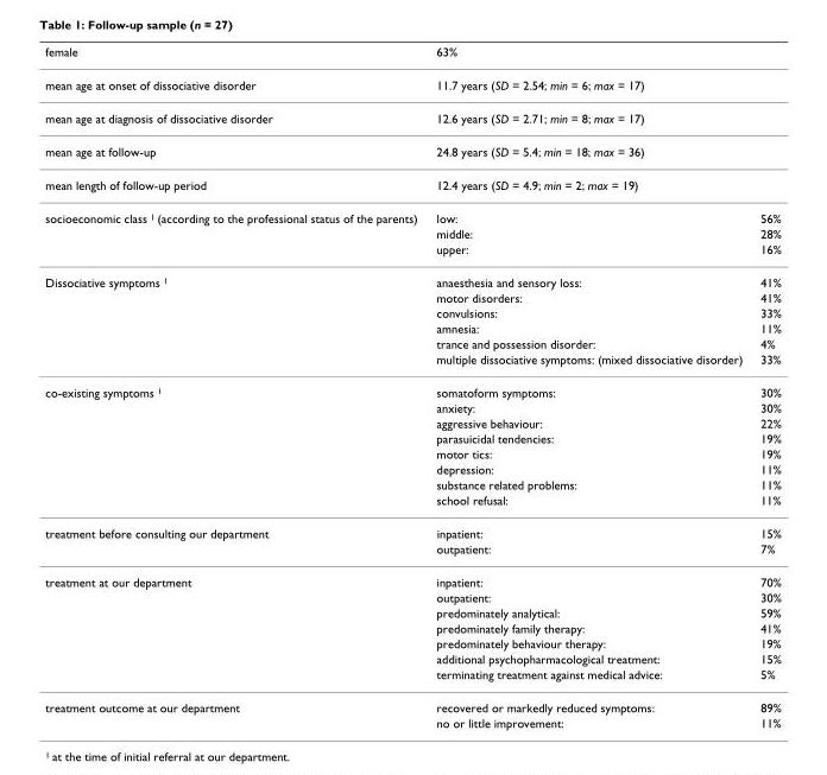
<table><thead><tr><td>female</td><td>63%</td><td></td></tr></thead><tbody><tr><td>mean age at onset of dissociative disorder</td><td>11.7 years (SD = 2.54; min = 6; max = 17)</td><td></td></tr><tr><td>mean age at diagnosis of dissociative disorder</td><td>12.6 years (SD = 2.71; min = 8; max = 17)</td><td></td></tr><tr><td>mean age at follow-up</td><td>24.8 years (SD = 5.4; min = 18; max = 36)</td><td></td></tr><tr><td>mean length of follow-up period</td><td>12.4 years (SD = 4.9; min = 2; max = 19)</td><td></td></tr><tr><td rowspan="3">socioeconomic class <sup>1</sup> (according to the professional status of the parents)</td><td>low:</td><td>56%</td></tr><tr><td>middle:</td><td>28%</td></tr><tr><td>upper:</td><td>16%</td></tr><tr><td rowspan="6">Dissociative symptoms <sup>1</sup></td><td>anaesthesia and sensory loss:</td><td>41%</td></tr><tr><td>motor disorders:</td><td>41%</td></tr><tr><td>convulsions:</td><td>33%</td></tr><tr><td>amnesia:</td><td>11%</td></tr><tr><td>trance and possession disorder:</td><td>4%</td></tr><tr><td>multiple dissociative symptoms: (mixed dissociative disorder)</td><td>33%</td></tr><tr><td rowspan="8">co-existing symptoms <sup>1</sup></td><td>somatoform symptoms:</td><td>30%</td></tr><tr><td>anxiety:</td><td>30%</td></tr><tr><td>aggressive behaviour:</td><td>22%</td></tr><tr><td>parasuicidal tendencies:</td><td>19%</td></tr><tr><td>motor tics:</td><td>19%</td></tr><tr><td>depression:</td><td>11%</td></tr><tr><td>substance related problems:</td><td>11%</td></tr><tr><td>school refusal:</td><td>11%</td></tr><tr><td rowspan="2">treatment before consulting our department</td><td>inpatient:</td><td>15%</td></tr><tr><td>outpatient:</td><td>7%</td></tr><tr><td rowspan="7">treatment at our department</td><td>inpatient:</td><td>70%</td></tr><tr><td>outpatient:</td><td>30%</td></tr><tr><td>predominately analytical:</td><td>59%</td></tr><tr><td>predominately family therapy:</td><td>41%</td></tr><tr><td>predominately behaviour therapy:</td><td>19%</td></tr><tr><td>additional psychopharmacological treatment:</td><td>15%</td></tr><tr><td>terminating treatment against medical advice:</td><td>5%</td></tr><tr><td rowspan="2">treatment outcome at our department</td><td>recovered or markedly reduced symptoms:</td><td>89%</td></tr><tr><td>no or little improvement:</td><td>11%</td></tr></tbody></table>